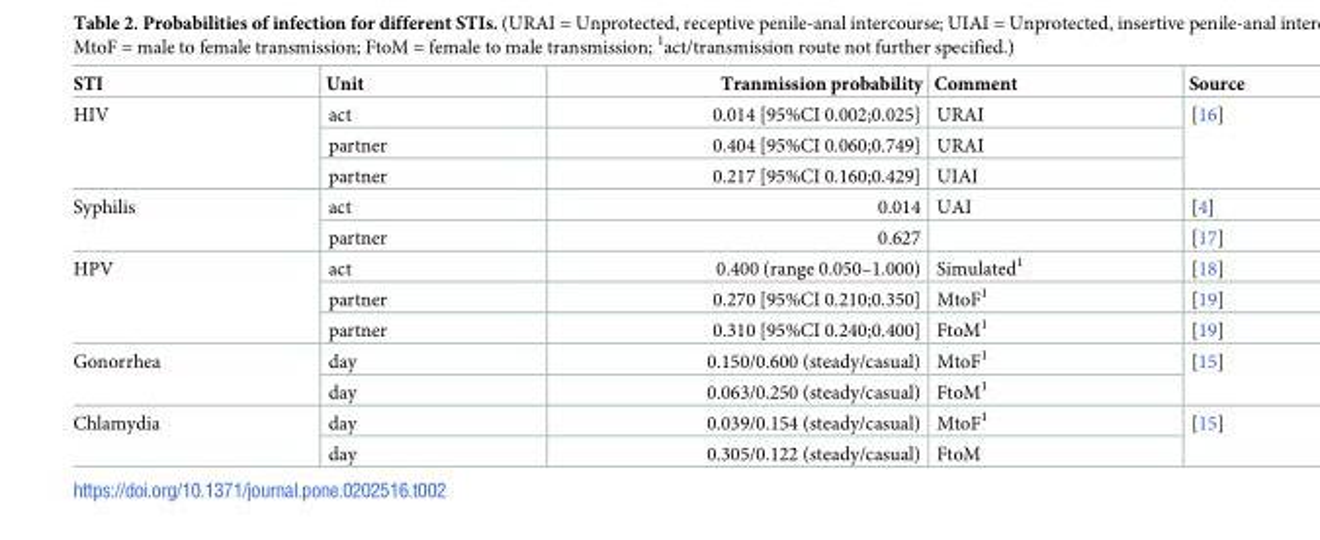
<table><thead><tr><td>STI</td><td>Unit</td><td>Tranmission probability</td><td>Comment</td><td>Source</td></tr></thead><tbody><tr><td rowspan="3">HIV</td><td>act</td><td>0.014 [95%CI 0.002;0.025]</td><td>URAI</td><td rowspan="3">[16]</td></tr><tr><td>partner</td><td>0.404 [95%CI 0.060;0.749]</td><td>URAI</td></tr><tr><td>partner</td><td>0.217 [95%CI 0.160;0.429]</td><td>UIAI</td></tr><tr><td rowspan="2">Syphilis</td><td>act</td><td>0.014</td><td>UAI</td><td>[4]</td></tr><tr><td>partner</td><td>0.627</td><td></td><td>[17]</td></tr><tr><td rowspan="3">HPV</td><td>act</td><td>0.400 (range 0.050–1.000)</td><td>Simulated<sup>1</sup></td><td>[18]</td></tr><tr><td>partner</td><td>0.270 [95%CI 0.210;0.350]</td><td>MtoF<sup>1</sup></td><td>[19]</td></tr><tr><td>partner</td><td>0.310 [95%CI 0.240;0.400]</td><td>FtoM<sup>1</sup></td><td>[19]</td></tr><tr><td rowspan="2">Gonorrhea</td><td>day</td><td>0.150/0.600 (steady/casual)</td><td>MtoF<sup>1</sup></td><td rowspan="2">[15]</td></tr><tr><td>day</td><td>0.063/0.250 (steady/casual)</td><td>FtoM<sup>1</sup></td></tr><tr><td rowspan="2">Chlamydia</td><td>day</td><td>0.039/0.154 (steady/casual)</td><td>MtoF<sup>1</sup></td><td rowspan="2">[15]</td></tr><tr><td>day</td><td>0.305/0.122 (steady/casual)</td><td>FtoM</td></tr></tbody></table>